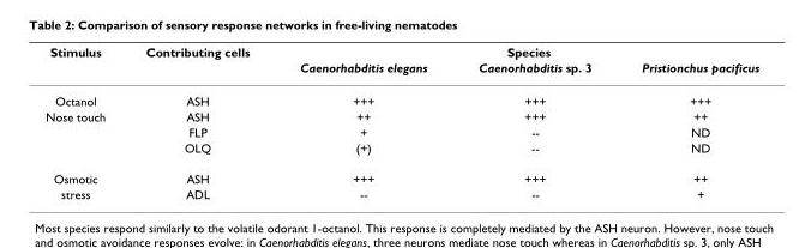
<table><thead><tr><td rowspan="2">Stimulus</td><td rowspan="2">Contributing cells</td><td colspan="3">Species</td></tr><tr><td>Caenorhabditis elegans</td><td>Caenorhabditis sp. 3</td><td>Pristionchus pacificus</td></tr></thead><tbody><tr><td>Octanol</td><td>ASH</td><td>+++</td><td>+++</td><td>+++</td></tr><tr><td rowspan="3">Nose touch</td><td>ASH</td><td>++</td><td>+++</td><td>++</td></tr><tr><td>FLP</td><td>+</td><td>--</td><td>ND</td></tr><tr><td>OLQ</td><td>(+)</td><td>--</td><td>ND</td></tr><tr><td>Osmotic</td><td>ASH</td><td>+++</td><td>+++</td><td>++</td></tr><tr><td>stress</td><td>ADL</td><td>--</td><td>--</td><td>+</td></tr></tbody></table>